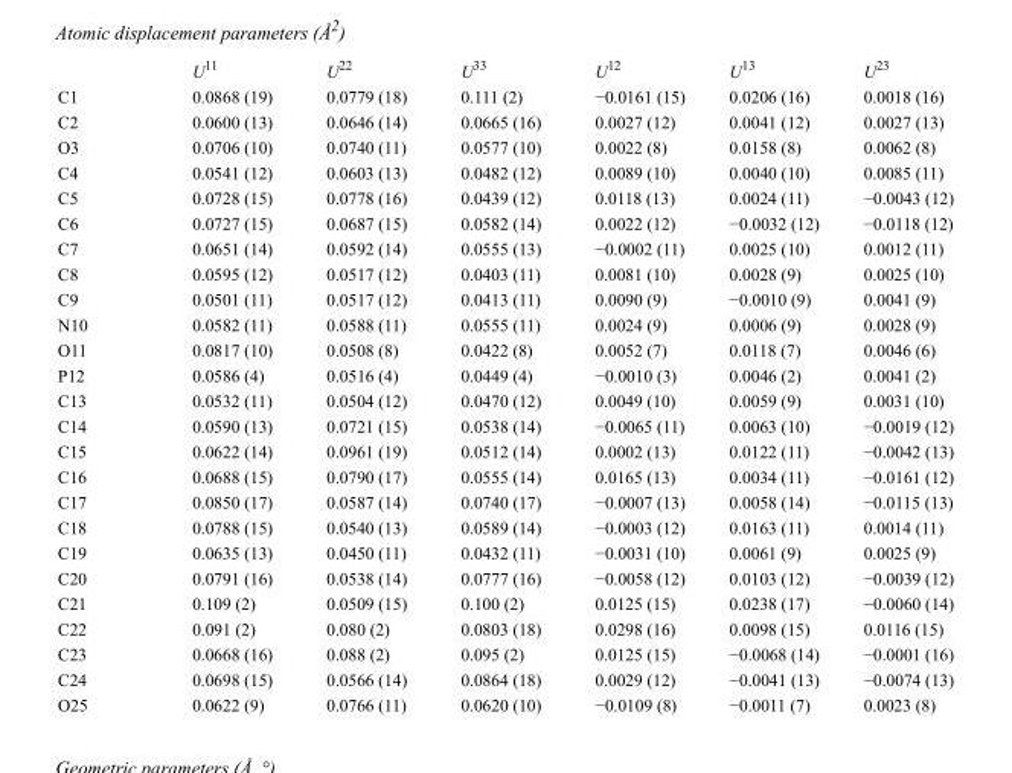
<table><thead><tr><td></td><td>U<sup>11</sup></td><td>U<sup>22</sup></td><td>U<sup>33</sup></td><td>U<sup>12</sup></td><td>U<sup>13</sup></td><td>U<sup>23</sup></td></tr></thead><tbody><tr><td>C1</td><td>0.0868 (19)</td><td>0.0779 (18)</td><td>0.111 (2)</td><td>−0.0161 (15)</td><td>0.0206 (16)</td><td>0.0018 (16)</td></tr><tr><td>C2</td><td>0.0600 (13)</td><td>0.0646 (14)</td><td>0.0665 (16)</td><td>0.0027 (12)</td><td>0.0041 (12)</td><td>0.0027 (13)</td></tr><tr><td>O3</td><td>0.0706 (10)</td><td>0.0740 (11)</td><td>0.0577 (10)</td><td>0.0022 (8)</td><td>0.0158 (8)</td><td>0.0062 (8)</td></tr><tr><td>C4</td><td>0.0541 (12)</td><td>0.0603 (13)</td><td>0.0482 (12)</td><td>0.0089 (10)</td><td>0.0040 (10)</td><td>0.0085 (11)</td></tr><tr><td>C5</td><td>0.0728 (15)</td><td>0.0778 (16)</td><td>0.0439 (12)</td><td>0.0118 (13)</td><td>0.0024 (11)</td><td>−0.0043 (12)</td></tr><tr><td>C6</td><td>0.0727 (15)</td><td>0.0687 (15)</td><td>0.0582 (14)</td><td>0.0022 (12)</td><td>−0.0032 (12)</td><td>−0.0118 (12)</td></tr><tr><td>C7</td><td>0.0651 (14)</td><td>0.0592 (14)</td><td>0.0555 (13)</td><td>−0.0002 (11)</td><td>0.0025 (10)</td><td>0.0012 (11)</td></tr><tr><td>C8</td><td>0.0595 (12)</td><td>0.0517 (12)</td><td>0.0403 (11)</td><td>0.0081 (10)</td><td>0.0028 (9)</td><td>0.0025 (10)</td></tr><tr><td>C9</td><td>0.0501 (11)</td><td>0.0517 (12)</td><td>0.0413 (11)</td><td>0.0090 (9)</td><td>−0.0010 (9)</td><td>0.0041 (9)</td></tr><tr><td>N10</td><td>0.0582 (11)</td><td>0.0588 (11)</td><td>0.0555 (11)</td><td>0.0024 (9)</td><td>0.0006 (9)</td><td>0.0028 (9)</td></tr><tr><td>O11</td><td>0.0817 (10)</td><td>0.0508 (8)</td><td>0.0422 (8)</td><td>0.0052 (7)</td><td>0.0118 (7)</td><td>0.0046 (6)</td></tr><tr><td>P12</td><td>0.0586 (4)</td><td>0.0516 (4)</td><td>0.0449 (4)</td><td>−0.0010 (3)</td><td>0.0046 (2)</td><td>0.0041 (2)</td></tr><tr><td>C13</td><td>0.0532 (11)</td><td>0.0504 (12)</td><td>0.0470 (12)</td><td>0.0049 (10)</td><td>0.0059 (9)</td><td>0.0031 (10)</td></tr><tr><td>C14</td><td>0.0590 (13)</td><td>0.0721 (15)</td><td>0.0538 (14)</td><td>−0.0065 (11)</td><td>0.0063 (10)</td><td>−0.0019 (12)</td></tr><tr><td>C15</td><td>0.0622 (14)</td><td>0.0961 (19)</td><td>0.0512 (14)</td><td>0.0002 (13)</td><td>0.0122 (11)</td><td>−0.0042 (13)</td></tr><tr><td>C16</td><td>0.0688 (15)</td><td>0.0790 (17)</td><td>0.0555 (14)</td><td>0.0165 (13)</td><td>0.0034 (11)</td><td>−0.0161 (12)</td></tr><tr><td>C17</td><td>0.0850 (17)</td><td>0.0587 (14)</td><td>0.0740 (17)</td><td>−0.0007 (13)</td><td>0.0058 (14)</td><td>−0.0115 (13)</td></tr><tr><td>C18</td><td>0.0788 (15)</td><td>0.0540 (13)</td><td>0.0589 (14)</td><td>−0.0003 (12)</td><td>0.0163 (11)</td><td>0.0014 (11)</td></tr><tr><td>C19</td><td>0.0635 (13)</td><td>0.0450 (11)</td><td>0.0432 (11)</td><td>−0.0031 (10)</td><td>0.0061 (9)</td><td>0.0025 (9)</td></tr><tr><td>C20</td><td>0.0791 (16)</td><td>0.0538 (14)</td><td>0.0777 (16)</td><td>−0.0058 (12)</td><td>0.0103 (12)</td><td>−0.0039 (12)</td></tr><tr><td>C21</td><td>0.109 (2)</td><td>0.0509 (15)</td><td>0.100 (2)</td><td>0.0125 (15)</td><td>0.0238 (17)</td><td>−0.0060 (14)</td></tr><tr><td>C22</td><td>0.091 (2)</td><td>0.080 (2)</td><td>0.0803 (18)</td><td>0.0298 (16)</td><td>0.0098 (15)</td><td>0.0116 (15)</td></tr><tr><td>C23</td><td>0.0668 (16)</td><td>0.088 (2)</td><td>0.095 (2)</td><td>0.0125 (15)</td><td>−0.0068 (14)</td><td>−0.0001 (16)</td></tr><tr><td>C24</td><td>0.0698 (15)</td><td>0.0566 (14)</td><td>0.0864 (18)</td><td>0.0029 (12)</td><td>−0.0041 (13)</td><td>−0.0074 (13)</td></tr><tr><td>O25</td><td>0.0622 (9)</td><td>0.0766 (11)</td><td>0.0620 (10)</td><td>−0.0109 (8)</td><td>−0.0011 (7)</td><td>0.0023 (8)</td></tr></tbody></table>